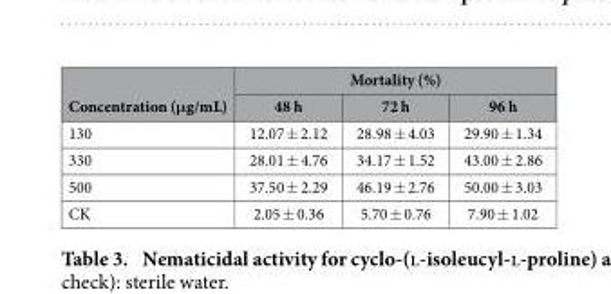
<table><thead><tr><td rowspan="2">Concentration (μg/mL)</td><td colspan="3">Mortality (%)</td></tr><tr><td>48 h</td><td>72 h</td><td>96 h</td></tr></thead><tbody><tr><td>130</td><td>12.07 ± 2.12</td><td>28.98 ± 4.03</td><td>29.90 ± 1.34</td></tr><tr><td>330</td><td>28.01 ± 4.76</td><td>34.17 ± 1.52</td><td>43.00 ± 2.86</td></tr><tr><td>500</td><td>37.50 ± 2.29</td><td>46.19 ± 2.76</td><td>50.00 ± 3.03</td></tr><tr><td>CK</td><td>2.05 ± 0.36</td><td>5.70 ± 0.76</td><td>7.90 ± 1.02</td></tr></tbody></table>